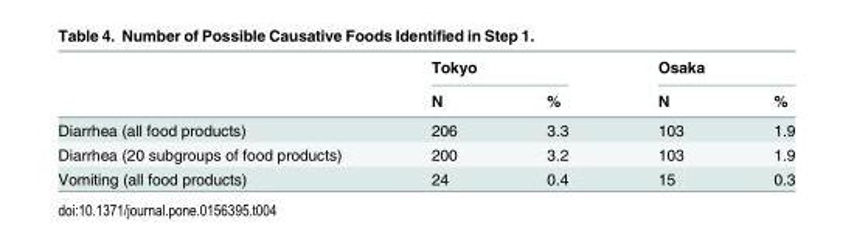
<table><thead><tr><td rowspan="2"></td><td colspan="2">Tokyo</td><td colspan="2">Osaka</td></tr><tr><td>N</td><td>%</td><td>N</td><td>%</td></tr></thead><tbody><tr><td>Diarrhea (all food products)</td><td>206</td><td>3.3</td><td>103</td><td>1.9</td></tr><tr><td>Diarrhea (20 subgroups of food products)</td><td>200</td><td>3.2</td><td>103</td><td>1.9</td></tr><tr><td>Vomiting (all food products)</td><td>24</td><td>0.4</td><td>15</td><td>0.3</td></tr></tbody></table>